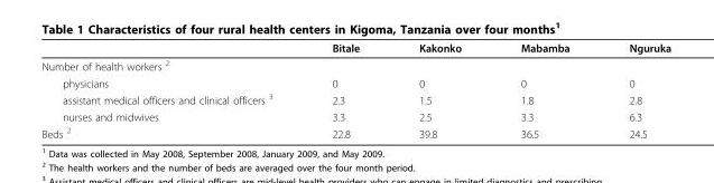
<table><thead><tr><td></td><td>Bitale</td><td>Kakonko</td><td>Mabamba</td><td>Nguruka</td></tr></thead><tbody><tr><td colspan="5">Number of health workers <sup>2</sup></td></tr><tr><td>physicians</td><td>0</td><td>0</td><td>0</td><td>0</td></tr><tr><td>assistant medical officers and clinical officers <sup>3</sup></td><td>2.3</td><td>1.5</td><td>1.8</td><td>2.8</td></tr><tr><td>nurses and midwives</td><td>3.3</td><td>2.5</td><td>3.3</td><td>6.3</td></tr><tr><td>Beds <sup>2</sup></td><td>22.8</td><td>39.8</td><td>36.5</td><td>24.5</td></tr></tbody></table>